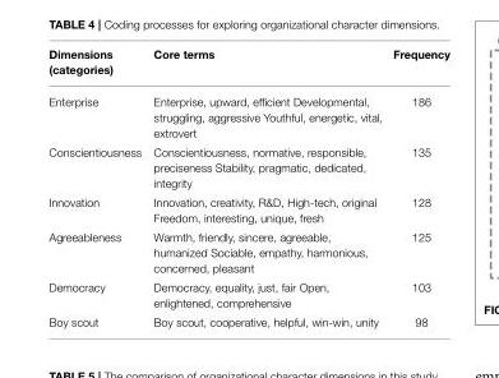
<table><thead><tr><td>Dimensions (categories)</td><td>Core terms</td><td>Frequency</td></tr></thead><tbody><tr><td>Enterprise</td><td>Enterprise, upward, efficient Developmental, struggling, aggressive Youthful, energetic, vital, extrovert</td><td>186</td></tr><tr><td>Conscientiousness</td><td>Conscientiousness, normative, responsible, preciseness Stability, pragmatic, dedicated, integrity</td><td>135</td></tr><tr><td>Innovation</td><td>Innovation, creativity, R&amp;D, High-tech, original Freedom, interesting, unique, fresh</td><td>128</td></tr><tr><td>Agreeableness</td><td>Warmth, friendly, sincere, agreeable, humanized Sociable, empathy, harmonious, concerned, pleasant</td><td>125</td></tr><tr><td>Democracy</td><td>Democracy, equality, just, fair Open, enlightened, comprehensive</td><td>103</td></tr><tr><td>Boy scout</td><td>Boy scout, cooperative, helpful, win-win, unity</td><td>98</td></tr></tbody></table>